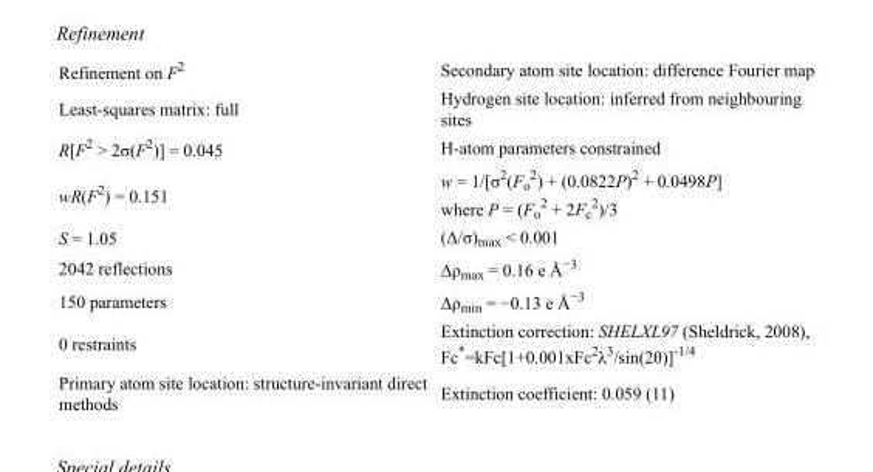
<table><tbody><tr><td>Refinement on F<sup>2</sup></td><td>Secondary atom site location: difference Fourier map</td></tr><tr><td>Least-squares matrix: full</td><td>Hydrogen site location: inferred from neighbouring sites</td></tr><tr><td>R[F<sup>2</sup> &gt; 2σ(F<sup>2</sup>)] = 0.045</td><td>H-atom parameters constrained</td></tr><tr><td>wR(F<sup>2</sup>) = 0.151</td><td>w = 1/[σ<sup>2</sup>(F<sub>o</sub> <sup>2</sup>) + (0.0822P)<sup>2</sup> + 0.0498P] where P = (F<sub>o</sub> <sup>2</sup> + 2F<sub>c</sub> <sup>2</sup>)/3</td></tr><tr><td>S = 1.05</td><td>(Δ/σ)<sub>max</sub> &lt; 0.001</td></tr><tr><td>2042 reflections</td><td>Δρ<sub>max</sub> = 0.16 e Å<sup>−3</sup></td></tr><tr><td>150 parameters</td><td>Δρ<sub>min</sub> = −0.13 e Å<sup>−3</sup></td></tr><tr><td>0 restraints</td><td>Extinction correction: SHELXL97 (Sheldrick, 2008), Fc*=kFc[1+0.001xFc<sup>2</sup>λ<sup>3</sup>/sin(2θ)]<sup>-1/4</sup></td></tr><tr><td>Primary atom site location: structure-invariant direct methods</td><td>Extinction coefficient: 0.059 (11)</td></tr></tbody></table>